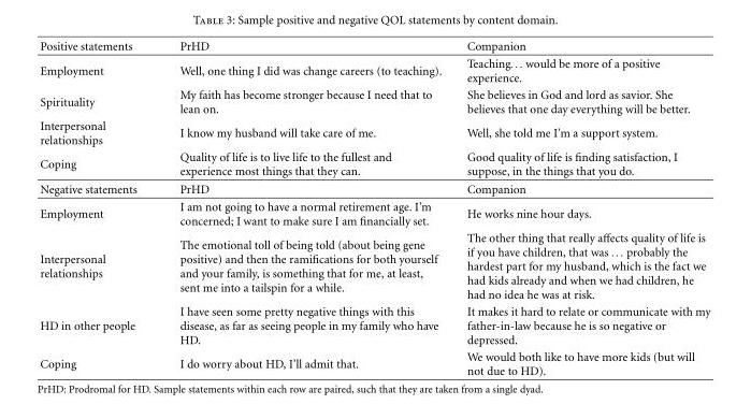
<table><thead><tr><td>Positive statements</td><td>PrHD</td><td>Companion</td></tr></thead><tbody><tr><td>Employment</td><td>Well, one thing I did was change careers (to teaching).</td><td>Teaching... would be more of a positive experience.</td></tr><tr><td>Spirituality</td><td>My faith has become stronger because I need that to lean on.</td><td>She believes in God and lord as savior. She believes that one day everything will be better.</td></tr><tr><td>Interpersonal relationships</td><td>I know my husband will take care of me.</td><td>Well, she told me I’m a support system.</td></tr><tr><td>Coping</td><td>Quality of life is to live life to the fullest and experience most things that they can.</td><td>Good quality of life is finding satisfaction, I suppose, in the things that you do.</td></tr><tr><td>Negative statements</td><td>PrHD</td><td>Companion</td></tr><tr><td>Employment</td><td>I am not going to have a normal retirement age. I’m concerned; I want to make sure I am financially set.</td><td>He works nine hour days.</td></tr><tr><td>Interpersonal relationships</td><td>The emotional toll of being told (about being gene positive) and then the ramifications for both yourself and your family, is something that for me, at least, sent me into a tailspin for a while.</td><td>The other thing that really affects quality of life is if you have children, that was ... probably the hardest part for my husband, which is the fact we had kids already and when we had children, he had no idea he was at risk.</td></tr><tr><td>HD in other people</td><td>I have seen some pretty negative things with this disease, as far as seeing people in my family who have HD.</td><td>It makes it hard to relate or communicate with my father-in-law because he is so negative or depressed.</td></tr><tr><td>Coping</td><td>I do worry about HD, I’ll admit that.</td><td>We would both like to have more kids (but will not due to HD).</td></tr></tbody></table>